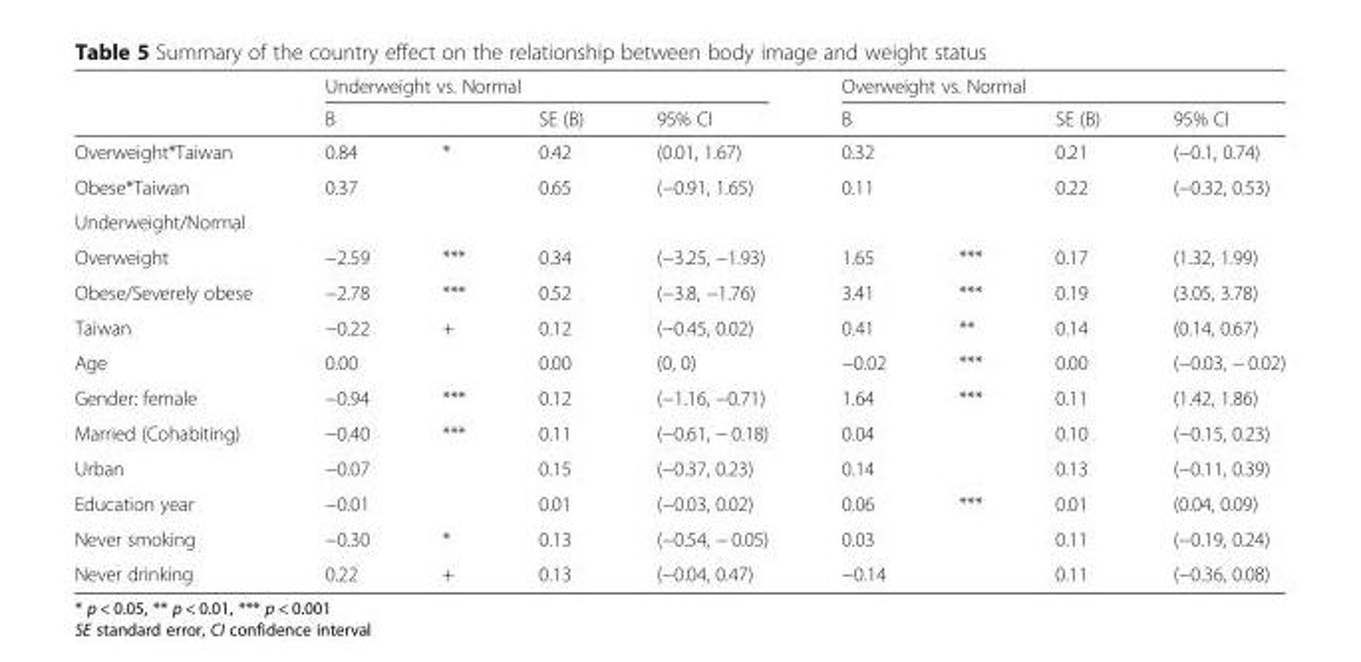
<table><thead><tr><td rowspan="2"></td><td colspan="4">Underweight vs. Normal</td><td colspan="4">Overweight vs. Normal</td></tr><tr><td>B</td><td></td><td>SE (B)</td><td>95% CI</td><td>B</td><td></td><td>SE (B)</td><td>95% CI</td></tr></thead><tbody><tr><td>Overweight*Taiwan</td><td>0.84</td><td>*</td><td>0.42</td><td>(0.01, 1.67)</td><td>0.32</td><td></td><td>0.21</td><td>(−0.1, 0.74)</td></tr><tr><td>Obese*Taiwan</td><td>0.37</td><td></td><td>0.65</td><td>(−0.91, 1.65)</td><td>0.11</td><td></td><td>0.22</td><td>(−0.32, 0.53)</td></tr><tr><td colspan="9">Underweight/Normal</td></tr><tr><td>Overweight</td><td>−2.59</td><td>***</td><td>0.34</td><td>(−3.25, −1.93)</td><td>1.65</td><td>***</td><td>0.17</td><td>(1.32, 1.99)</td></tr><tr><td>Obese/Severely obese</td><td>−2.78</td><td>***</td><td>0.52</td><td>(−3.8, −1.76)</td><td>3.41</td><td>***</td><td>0.19</td><td>(3.05, 3.78)</td></tr><tr><td>Taiwan</td><td>−0.22</td><td>+</td><td>0.12</td><td>(−0.45, 0.02)</td><td>0.41</td><td>**</td><td>0.14</td><td>(0.14, 0.67)</td></tr><tr><td>Age</td><td>0.00</td><td></td><td>0.00</td><td>(0, 0)</td><td>−0.02</td><td>***</td><td>0.00</td><td>(−0.03, − 0.02)</td></tr><tr><td>Gender: female</td><td>−0.94</td><td>***</td><td>0.12</td><td>(−1.16, −0.71)</td><td>1.64</td><td>***</td><td>0.11</td><td>(1.42, 1.86)</td></tr><tr><td>Married (Cohabiting)</td><td>−0.40</td><td>***</td><td>0.11</td><td>(−0.61, − 0.18)</td><td>0.04</td><td></td><td>0.10</td><td>(−0.15, 0.23)</td></tr><tr><td>Urban</td><td>−0.07</td><td></td><td>0.15</td><td>(−0.37, 0.23)</td><td>0.14</td><td></td><td>0.13</td><td>(−0.11, 0.39)</td></tr><tr><td>Education year</td><td>−0.01</td><td></td><td>0.01</td><td>(−0.03, 0.02)</td><td>0.06</td><td>***</td><td>0.01</td><td>(0.04, 0.09)</td></tr><tr><td>Never smoking</td><td>−0.30</td><td>*</td><td>0.13</td><td>(−0.54, − 0.05)</td><td>0.03</td><td></td><td>0.11</td><td>(−0.19, 0.24)</td></tr><tr><td>Never drinking</td><td>0.22</td><td>+</td><td>0.13</td><td>(−0.04, 0.47)</td><td>−0.14</td><td></td><td>0.11</td><td>(−0.36, 0.08)</td></tr></tbody></table>